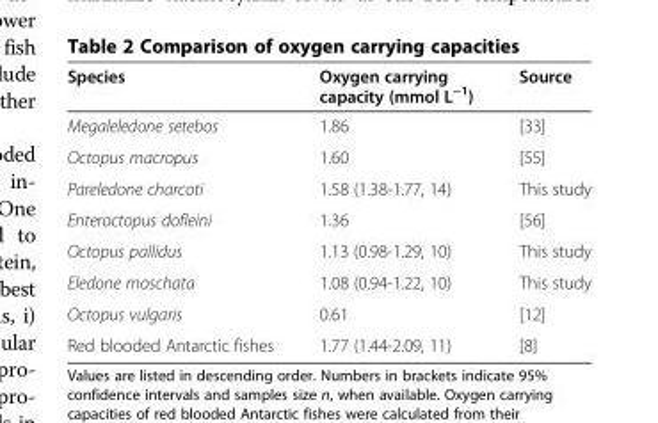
<table><thead><tr><td>Species</td><td>Oxygen carrying capacity (mmol L<sup>−1</sup>)</td><td>Source</td></tr></thead><tbody><tr><td>Megaleledone setebos</td><td>1.86</td><td>[33]</td></tr><tr><td>Octopus macropus</td><td>1.60</td><td>[55]</td></tr><tr><td>Pareledone charcoti</td><td>1.58 (1.38-1.77, 14)</td><td>This study</td></tr><tr><td>Enteroctopus dofleini</td><td>1.36</td><td>[56]</td></tr><tr><td>Octopus pallidus</td><td>1.13 (0.98-1.29, 10)</td><td>This study</td></tr><tr><td>Eledone moschata</td><td>1.08 (0.94-1.22, 10)</td><td>This study</td></tr><tr><td>Octopus vulgaris</td><td>0.61</td><td>[12]</td></tr><tr><td>Red blooded Antarctic fishes</td><td>1.77 (1.44-2.09, 11)</td><td>[8]</td></tr></tbody></table>